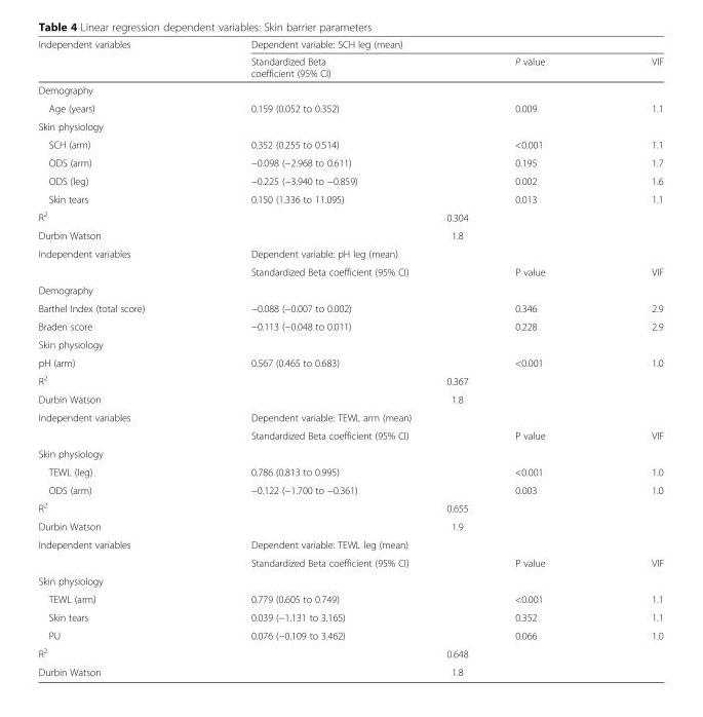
<table><thead><tr><td rowspan="2">Independent variables</td><td colspan="3">Dependent variable: SCH leg (mean)</td></tr><tr><td>Standardized Beta coefficient (95% CI)</td><td>P value</td><td>VIF</td></tr></thead><tbody><tr><td colspan="4">Demography</td></tr><tr><td>Age (years)</td><td>0.159 (0.052 to 0.352)</td><td>0.009</td><td>1.1</td></tr><tr><td colspan="4">Skin physiology</td></tr><tr><td>SCH (arm)</td><td>0.352 (0.255 to 0.514)</td><td>&lt;0.001</td><td>1.1</td></tr><tr><td>ODS (arm)</td><td>−0.098 (−2.968 to 0.611)</td><td>0.195</td><td>1.7</td></tr><tr><td>ODS (leg)</td><td>−0.225 (−3.940 to −0.859)</td><td>0.002</td><td>1.6</td></tr><tr><td>Skin tears</td><td>0.150 (1.336 to 11.095)</td><td>0.013</td><td>1.1</td></tr><tr><td>R<sup>2</sup></td><td colspan="3">0.304</td></tr><tr><td>Durbin Watson</td><td colspan="3">1.8</td></tr><tr><td rowspan="2">Independent variables</td><td colspan="3">Dependent variable: pH leg (mean)</td></tr><tr><td>Standardized Beta coefficient (95% CI)</td><td>P value</td><td>VIF</td></tr><tr><td colspan="4">Demography</td></tr><tr><td>Barthel Index (total score)</td><td>−0.088 (−0.007 to 0.002)</td><td>0.346</td><td>2.9</td></tr><tr><td>Braden score</td><td>−0.113 (−0.048 to 0.011)</td><td>0.228</td><td>2.9</td></tr><tr><td colspan="4">Skin physiology</td></tr><tr><td>pH (arm)</td><td>0.567 (0.465 to 0.683)</td><td>&lt;0.001</td><td>1.0</td></tr><tr><td>R<sup>2</sup></td><td colspan="3">0.367</td></tr><tr><td>Durbin Watson</td><td colspan="3">1.8</td></tr><tr><td rowspan="2">Independent variables</td><td colspan="3">Dependent variable: TEWL arm (mean)</td></tr><tr><td>Standardized Beta coefficient (95% CI)</td><td>P value</td><td>VIF</td></tr><tr><td colspan="4">Skin physiology</td></tr><tr><td>TEWL (leg)</td><td>0.786 (0.813 to 0.995)</td><td>&lt;0.001</td><td>1.0</td></tr><tr><td>ODS (arm)</td><td>−0.122 (−1.700 to −0.361)</td><td>0.003</td><td>1.0</td></tr><tr><td>R<sup>2</sup></td><td colspan="3">0.655</td></tr><tr><td>Durbin Watson</td><td colspan="3">1.9</td></tr><tr><td rowspan="2">Independent variables</td><td colspan="3">Dependent variable: TEWL leg (mean)</td></tr><tr><td>Standardized Beta coefficient (95% CI)</td><td>P value</td><td>VIF</td></tr><tr><td colspan="4">Skin physiology</td></tr><tr><td>TEWL (arm)</td><td>0.779 (0.605 to 0.749)</td><td>&lt;0.001</td><td>1.1</td></tr><tr><td>Skin tears</td><td>0.039 (−1.131 to 3.165)</td><td>0.352</td><td>1.1</td></tr><tr><td>PU</td><td>0.076 (−0.109 to 3.462)</td><td>0.066</td><td>1.0</td></tr><tr><td>R<sup>2</sup></td><td colspan="3">0.648</td></tr><tr><td>Durbin Watson</td><td colspan="3">1.8</td></tr></tbody></table>